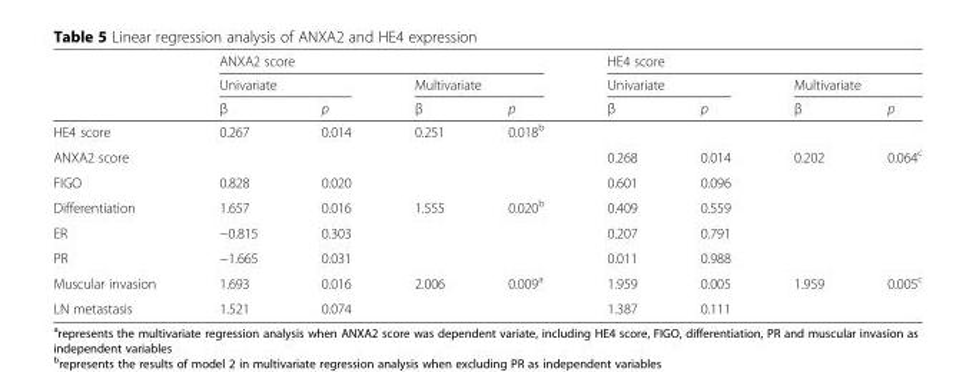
<table><thead><tr><td rowspan="3"></td><td colspan="4">ANXA2 score</td><td colspan="4">HE4 score</td></tr><tr><td colspan="2">Univariate</td><td colspan="2">Multivariate</td><td colspan="2">Univariate</td><td colspan="2">Multivariate</td></tr><tr><td>β</td><td>p</td><td>β</td><td>p</td><td>β</td><td>p</td><td>β</td><td>p</td></tr></thead><tbody><tr><td>HE4 score</td><td>0.267</td><td>0.014</td><td>0.251</td><td>0.018<sup>b</sup></td><td></td><td></td><td></td><td></td></tr><tr><td>ANXA2 score</td><td></td><td></td><td></td><td></td><td>0.268</td><td>0.014</td><td>0.202</td><td>0.064<sup>c</sup></td></tr><tr><td>FIGO</td><td>0.828</td><td>0.020</td><td></td><td></td><td>0.601</td><td>0.096</td><td></td><td></td></tr><tr><td>Differentiation</td><td>1.657</td><td>0.016</td><td>1.555</td><td>0.020<sup>b</sup></td><td>0.409</td><td>0.559</td><td></td><td></td></tr><tr><td>ER</td><td>−0.815</td><td>0.303</td><td></td><td></td><td>0.207</td><td>0.791</td><td></td><td></td></tr><tr><td>PR</td><td>−1.665</td><td>0.031</td><td></td><td></td><td>0.011</td><td>0.988</td><td></td><td></td></tr><tr><td>Muscular invasion</td><td>1.693</td><td>0.016</td><td>2.006</td><td>0.009<sup>a</sup></td><td>1.959</td><td>0.005</td><td>1.959</td><td>0.005<sup>c</sup></td></tr><tr><td>LN metastasis</td><td>1.521</td><td>0.074</td><td></td><td></td><td>1.387</td><td>0.111</td><td></td><td></td></tr></tbody></table>